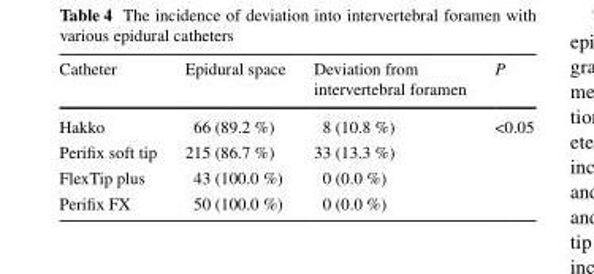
<table><thead><tr><td>Catheter</td><td>Epidural space</td><td>Deviation from intervertebral foramen</td><td>P</td></tr></thead><tbody><tr><td>Hakko</td><td>66 (89.2 %)</td><td>8 (10.8 %)</td><td rowspan="4">&lt;0.05</td></tr><tr><td>Perifix soft tip</td><td>215 (86.7 %)</td><td>33 (13.3 %)</td></tr><tr><td>FlexTip plus</td><td>43 (100.0 %)</td><td>0 (0.0 %)</td></tr><tr><td>Perifix FX</td><td>50 (100.0 %)</td><td>0 (0.0 %)</td></tr></tbody></table>